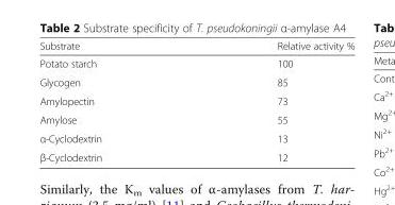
<table><thead><tr><td>Substrate</td><td>Relative activity %</td></tr></thead><tbody><tr><td>Potato starch</td><td>100</td></tr><tr><td>Glycogen</td><td>85</td></tr><tr><td>Amylopectin</td><td>73</td></tr><tr><td>Amylose</td><td>55</td></tr><tr><td>α-Cyclodextrin</td><td>13</td></tr><tr><td>β-Cyclodextrin</td><td>12</td></tr></tbody></table>